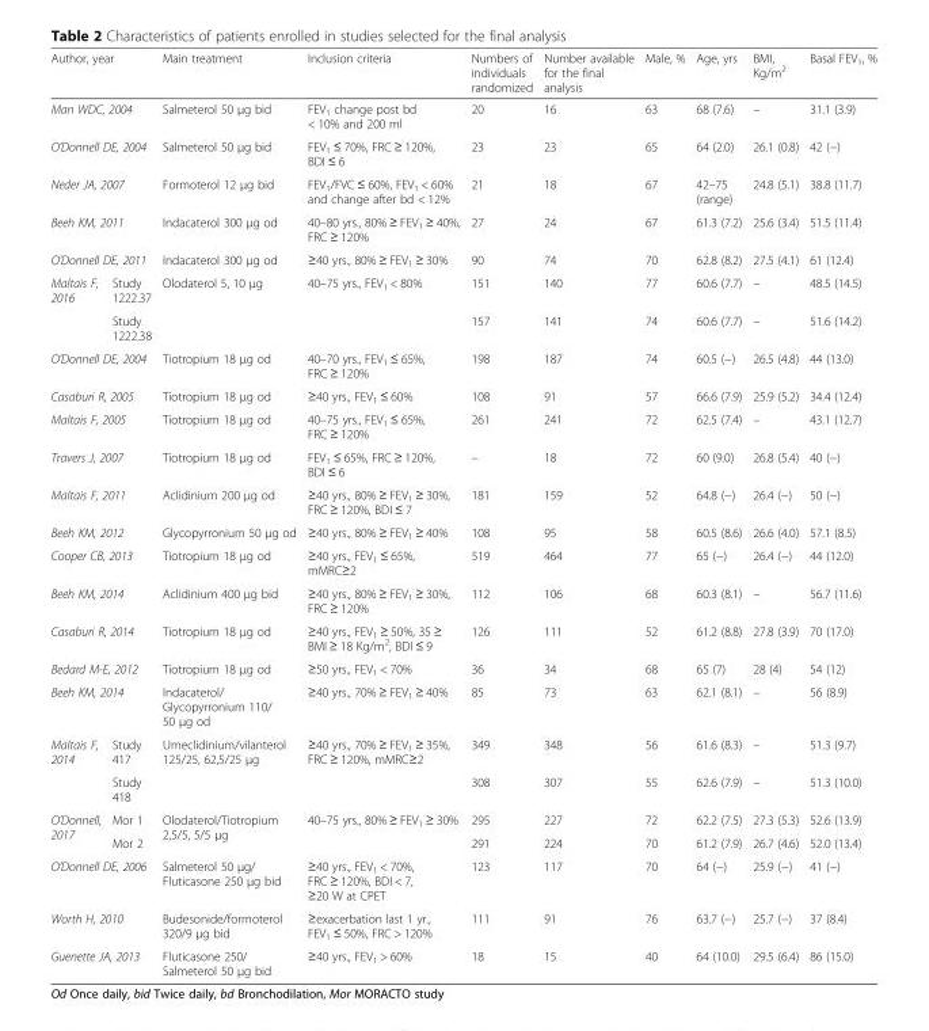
<table><thead><tr><td colspan="2">Author, year</td><td>Main treatment</td><td>Inclusion criteria</td><td>Numbers of individuals randomized</td><td>Number available for the final analysis</td><td>Male, %</td><td>Age, yrs</td><td>BMI, Kg/m<sup>2</sup></td><td>Basal FEV<sub>1</sub>, %</td></tr></thead><tbody><tr><td colspan="2">Man WDC, 2004</td><td>Salmeterol 50 μg bid</td><td>FEV<sub>1</sub> change post bd &lt; 10% and 200 ml</td><td>20</td><td>16</td><td>63</td><td>68 (7.6)</td><td>–</td><td>31.1 (3.9)</td></tr><tr><td colspan="2">O’Donnell DE, 2004</td><td>Salmeterol 50 μg bid</td><td>FEV<sub>1</sub> ≤ 70%, FRC ≥ 120%, BDI ≤ 6</td><td>23</td><td>23</td><td>65</td><td>64 (2.0)</td><td>26.1 (0.8)</td><td>42 (−)</td></tr><tr><td colspan="2">Neder JA, 2007</td><td>Formoterol 12 μg bid</td><td>FEV<sub>1</sub>/FVC ≤ 60%, FEV<sub>1</sub> &lt; 60% and change after bd &lt; 12%</td><td>21</td><td>18</td><td>67</td><td>42–75 (range)</td><td>24.8 (5.1)</td><td>38.8 (11.7)</td></tr><tr><td colspan="2">Beeh KM, 2011</td><td>Indacaterol 300 μg od</td><td>40–80 yrs., 80% ≥ FEV<sub>1</sub> ≥ 40%, FRC ≥ 120%</td><td>27</td><td>24</td><td>67</td><td>61.3 (7.2)</td><td>25.6 (3.4)</td><td>51.5 (11.4)</td></tr><tr><td colspan="2">O’Donnell DE, 2011</td><td>Indacaterol 300 μg od</td><td>≥40 yrs., 80% ≥ FEV<sub>1</sub> ≥ 30%</td><td>90</td><td>74</td><td>70</td><td>62.8 (8.2)</td><td>27.5 (4.1)</td><td>61 (12.4)</td></tr><tr><td rowspan="2">Maltais F, 2016</td><td>Study 1222.37</td><td rowspan="2">Olodaterol 5, 10 μg</td><td rowspan="2">40–75 yrs., FEV<sub>1</sub> &lt; 80%</td><td>151</td><td>140</td><td>77</td><td>60.6 (7.7)</td><td>–</td><td>48.5 (14.5)</td></tr><tr><td>Study 1222.38</td><td>157</td><td>141</td><td>74</td><td>60.6 (7.7)</td><td>–</td><td>51.6 (14.2)</td></tr><tr><td colspan="2">O’Donnell DE, 2004</td><td>Tiotropium 18 μg od</td><td>40–70 yrs., FEV<sub>1</sub> ≤ 65%, FRC ≥ 120%</td><td>198</td><td>187</td><td>74</td><td>60.5 (−)</td><td>26.5 (4.8)</td><td>44 (13.0)</td></tr><tr><td colspan="2">Casaburi R, 2005</td><td>Tiotropium 18 μg od</td><td>≥40 yrs., FEV<sub>1</sub> ≤ 60%</td><td>108</td><td>91</td><td>57</td><td>66.6 (7.9)</td><td>25.9 (5.2)</td><td>34.4 (12.4)</td></tr><tr><td colspan="2">Maltais F, 2005</td><td>Tiotropium 18 μg od</td><td>40–75 yrs., FEV<sub>1</sub> ≤ 65%, FRC ≥ 120%</td><td>261</td><td>241</td><td>72</td><td>62.5 (7.4)</td><td>–</td><td>43.1 (12.7)</td></tr><tr><td colspan="2">Travers J, 2007</td><td>Tiotropium 18 μg od</td><td>FEV<sub>1</sub> ≤ 65%, FRC ≥ 120%, BDI ≤ 6</td><td>–</td><td>18</td><td>72</td><td>60 (9.0)</td><td>26.8 (5.4)</td><td>40 (−)</td></tr><tr><td colspan="2">Maltais F, 2011</td><td>Aclidinium 200 μg od</td><td>≥40 yrs., 80% ≥ FEV<sub>1</sub> ≥ 30%, FRC ≥ 120%, BDI ≤ 7</td><td>181</td><td>159</td><td>52</td><td>64.8 (−)</td><td>26.4 (−)</td><td>50 (−)</td></tr><tr><td colspan="2">Beeh KM, 2012</td><td>Glycopyrronium 50 μg od</td><td>≥40 yrs., 80% ≥ FEV<sub>1</sub> ≥ 40%</td><td>108</td><td>95</td><td>58</td><td>60.5 (8.6)</td><td>26.6 (4.0)</td><td>57.1 (8.5)</td></tr><tr><td colspan="2">Cooper CB, 2013</td><td>Tiotropium 18 μg od</td><td>≥40 yrs., FEV<sub>1</sub> ≤ 65%, mMRC≥2</td><td>519</td><td>464</td><td>77</td><td>65 (−)</td><td>26.4 (−)</td><td>44 (12.0)</td></tr><tr><td colspan="2">Beeh KM, 2014</td><td>Aclidinium 400 μg bid</td><td>≥40 yrs., 80% ≥ FEV<sub>1</sub> ≥ 30%, FRC ≥ 120%</td><td>112</td><td>106</td><td>68</td><td>60.3 (8.1)</td><td>–</td><td>56.7 (11.6)</td></tr><tr><td colspan="2">Casaburi R, 2014</td><td>Tiotropium 18 μg od</td><td>≥40 yrs., FEV<sub>1</sub> ≥ 50%, 35 ≥ BMI ≥ 18 Kg/m<sup>2</sup>, BDI ≤ 9</td><td>126</td><td>111</td><td>52</td><td>61.2 (8.8)</td><td>27.8 (3.9)</td><td>70 (17.0)</td></tr><tr><td colspan="2">Bedard M-E, 2012</td><td>Tiotropium 18 μg od</td><td>≥50 yrs., FEV<sub>1</sub> &lt; 70%</td><td>36</td><td>34</td><td>68</td><td>65 (7)</td><td>28 (4)</td><td>54 (12)</td></tr><tr><td colspan="2">Beeh KM, 2014</td><td>Indacaterol/ Glycopyrronium 110/ 50 μg od</td><td>≥40 yrs., 70% ≥ FEV<sub>1</sub> ≥ 40%</td><td>85</td><td>73</td><td>63</td><td>62.1 (8.1)</td><td>–</td><td>56 (8.9)</td></tr><tr><td rowspan="2">Maltais F, 2014</td><td>Study 417</td><td rowspan="2">Umeclidinium/vilanterol 125/25, 62,5/25 μg</td><td rowspan="2">≥40 yrs., 70% ≥ FEV<sub>1</sub> ≥ 35%, FRC ≥ 120%, mMRC≥2</td><td>349</td><td>348</td><td>56</td><td>61.6 (8.3)</td><td>–</td><td>51.3 (9.7)</td></tr><tr><td>Study 418</td><td>308</td><td>307</td><td>55</td><td>62.6 (7.9)</td><td>–</td><td>51.3 (10.0)</td></tr><tr><td rowspan="2">O’Donnell, 2017</td><td>Mor 1</td><td rowspan="2">Olodaterol/Tiotropium 2,5/5, 5/5 μg</td><td rowspan="2">40–75 yrs., 80% ≥ FEV<sub>1</sub> ≥ 30%</td><td>295</td><td>227</td><td>72</td><td>62.2 (7.5)</td><td>27.3 (5.3)</td><td>52.6 (13.9)</td></tr><tr><td>Mor 2</td><td>291</td><td>224</td><td>70</td><td>61.2 (7.9)</td><td>26.7 (4.6)</td><td>52.0 (13.4)</td></tr><tr><td colspan="2">O’Donnell DE, 2006</td><td>Salmeterol 50 μg/ Fluticasone 250 μg bid</td><td>≥40 yrs., FEV<sub>1</sub> &lt; 70%, FRC ≥ 120%, BDI &lt; 7, ≥20 W at CPET</td><td>123</td><td>117</td><td>70</td><td>64 (−)</td><td>25.9 (−)</td><td>41 (−)</td></tr><tr><td colspan="2">Worth H, 2010</td><td>Budesonide/formoterol 320/9 μg bid</td><td>≥exacerbation last 1 yr., FEV<sub>1</sub> ≤ 50%, FRC &gt; 120%</td><td>111</td><td>91</td><td>76</td><td>63.7 (−)</td><td>25.7 (−)</td><td>37 (8.4)</td></tr><tr><td colspan="2">Guenette JA, 2013</td><td>Fluticasone 250/ Salmeterol 50 μg bid</td><td>≥40 yrs., FEV<sub>1</sub> &gt; 60%</td><td>18</td><td>15</td><td>40</td><td>64 (10.0)</td><td>29.5 (6.4)</td><td>86 (15.0)</td></tr></tbody></table>